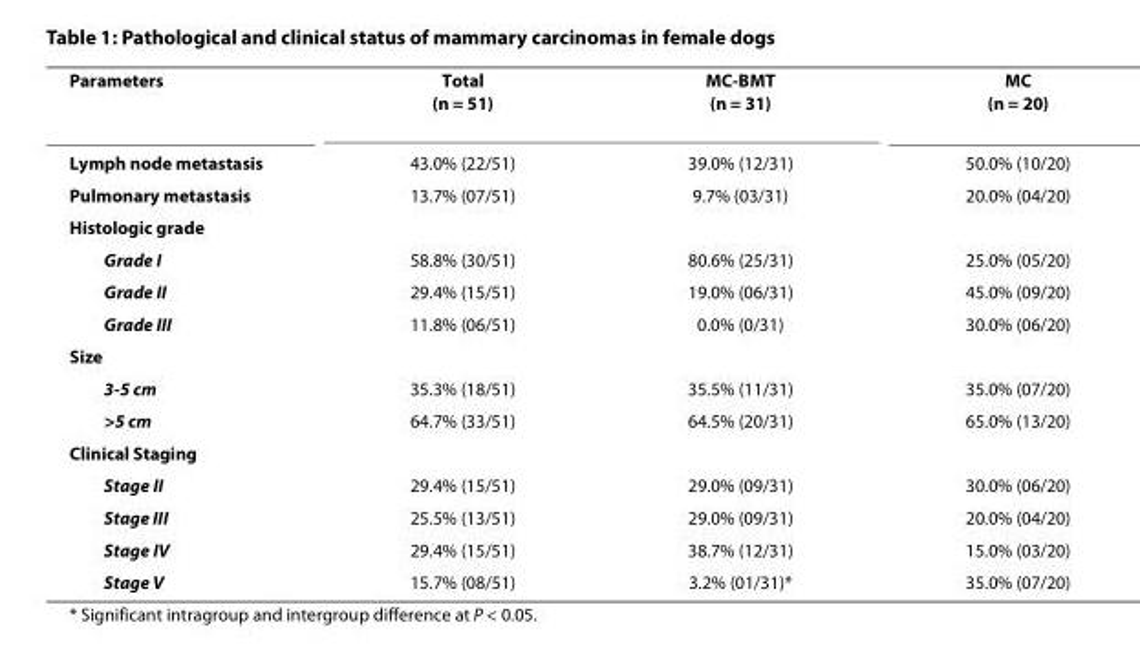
<table><tbody><tr><td>Parameters</td><td>Total (n = 51)</td><td>MC-BMT (n = 31)</td><td>MC (n = 20)</td></tr><tr><td>Lymph node metastasis</td><td>43.0% (22/51)</td><td>39.0% (12/31)</td><td>50.0% (10/20)</td></tr><tr><td>Pulmonary metastasis</td><td>13.7% (07/51)</td><td>9.7% (03/31)</td><td>20.0% (04/20)</td></tr><tr><td colspan="4">Histologic grade</td></tr><tr><td>Grade I</td><td>58.8% (30/51)</td><td>80.6% (25/31)</td><td>25.0% (05/20)</td></tr><tr><td>Grade II</td><td>29.4% (15/51)</td><td>19.0% (06/31)</td><td>45.0% (09/20)</td></tr><tr><td>Grade III</td><td>11.8% (06/51)</td><td>0.0% (0/31)</td><td>30.0% (06/20)</td></tr><tr><td colspan="4">Size</td></tr><tr><td>3-5 cm</td><td>35.3% (18/51)</td><td>35.5% (11/31)</td><td>35.0% (07/20)</td></tr><tr><td>&gt;5 cm</td><td>64.7% (33/51)</td><td>64.5% (20/31)</td><td>65.0% (13/20)</td></tr><tr><td colspan="4">Clinical Staging</td></tr><tr><td>Stage II</td><td>29.4% (15/51)</td><td>29.0% (09/31)</td><td>30.0% (06/20)</td></tr><tr><td>Stage III</td><td>25.5% (13/51)</td><td>29.0% (09/31)</td><td>20.0% (04/20)</td></tr><tr><td>Stage IV</td><td>29.4% (15/51)</td><td>38.7% (12/31)</td><td>15.0% (03/20)</td></tr><tr><td>Stage V</td><td>15.7% (08/51)</td><td>3.2% (01/31)*</td><td>35.0% (07/20)</td></tr></tbody></table>